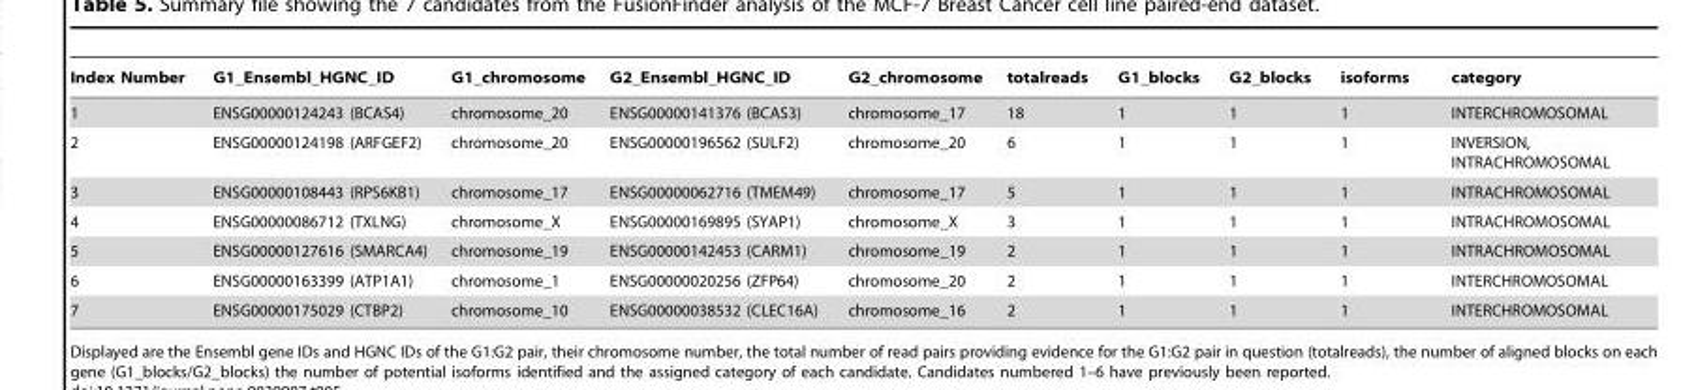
<table><thead><tr><td>Index Number</td><td>G1_Ensembl_HGNC_ID</td><td>G1_chromosome</td><td>G2_Ensembl_HGNC_ID</td><td>G2_chromosome</td><td>totalreads</td><td>G1_blocks</td><td>G2_blocks</td><td>isoforms</td><td>category</td></tr></thead><tbody><tr><td>1</td><td>ENSG00000124243 (BCAS4)</td><td>chromosome_20</td><td>ENSG00000141376 (BCAS3)</td><td>chromosome_17</td><td>18</td><td>1</td><td>1</td><td>1</td><td>INTERCHROMOSOMAL</td></tr><tr><td>2</td><td>ENSG00000124198 (ARFGEF2)</td><td>chromosome_20</td><td>ENSG00000196562 (SULF2)</td><td>chromosome_20</td><td>6</td><td>1</td><td>1</td><td>1</td><td>INVERSION, INTRACHROMOSOMAL</td></tr><tr><td>3</td><td>ENSG00000108443 (RPS6KB1)</td><td>chromosome_17</td><td>ENSG00000062716 (TMEM49)</td><td>chromosome_17</td><td>5</td><td>1</td><td>1</td><td>1</td><td>INTRACHROMOSOMAL</td></tr><tr><td>4</td><td>ENSG00000086712 (TXLNG)</td><td>chromosome_X</td><td>ENSG00000169895 (SYAP1)</td><td>chromosome_X</td><td>3</td><td>1</td><td>1</td><td>1</td><td>INTRACHROMOSOMAL</td></tr><tr><td>5</td><td>ENSG00000127616 (SMARCA4)</td><td>chromosome_19</td><td>ENSG00000142453 (CARM1)</td><td>chromosome_19</td><td>2</td><td>1</td><td>1</td><td>1</td><td>INTRACHROMOSOMAL</td></tr><tr><td>6</td><td>ENSG00000163399 (ATP1A1)</td><td>chromosome_1</td><td>ENSG00000020256 (ZFP64)</td><td>chromosome_20</td><td>2</td><td>1</td><td>1</td><td>1</td><td>INTERCHROMOSOMAL</td></tr><tr><td>7</td><td>ENSG00000175029 (CTBP2)</td><td>chromosome_10</td><td>ENSG00000038532 (CLEC16A)</td><td>chromosome_16</td><td>2</td><td>1</td><td>1</td><td>1</td><td>INTERCHROMOSOMAL</td></tr></tbody></table>